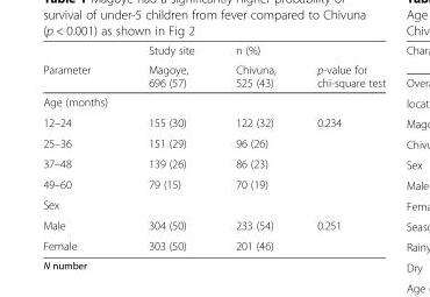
<table><thead><tr><td rowspan="2">Parameter</td><td rowspan="2">Study site Magoye, 696 (57)</td><td rowspan="2">n (%) Chivuna, 525 (43)</td><td rowspan="2">p-value for chi-square test</td></tr><tr></tr></thead><tbody><tr><td colspan="4">Age (months)</td></tr><tr><td>12–24</td><td>155 (30)</td><td>122 (32)</td><td>0.234</td></tr><tr><td>25–36</td><td>151 (29)</td><td>96 (26)</td><td></td></tr><tr><td>37–48</td><td>139 (26)</td><td>86 (23)</td><td></td></tr><tr><td>49–60</td><td>79 (15)</td><td>70 (19)</td><td></td></tr><tr><td colspan="4">Sex</td></tr><tr><td>Male</td><td>304 (50)</td><td>233 (54)</td><td>0.251</td></tr><tr><td>Female</td><td>303 (50)</td><td>201 (46)</td><td></td></tr></tbody></table>